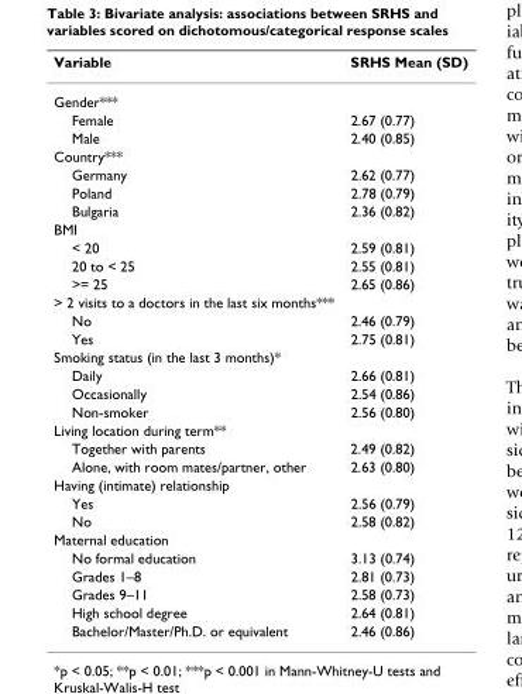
<table><thead><tr><td>Variable</td><td>SRHS Mean (SD)</td></tr></thead><tbody><tr><td colspan="2">Gender***</td></tr><tr><td>Female</td><td>2.67 (0.77)</td></tr><tr><td>Male</td><td>2.40 (0.85)</td></tr><tr><td colspan="2">Country***</td></tr><tr><td>Germany</td><td>2.62 (0.77)</td></tr><tr><td>Poland</td><td>2.78 (0.79)</td></tr><tr><td>Bulgaria</td><td>2.36 (0.82)</td></tr><tr><td colspan="2">BMI</td></tr><tr><td>&lt; 20</td><td>2.59 (0.81)</td></tr><tr><td>20 to &lt; 25</td><td>2.55 (0.81)</td></tr><tr><td>&gt;= 25</td><td>2.65 (0.86)</td></tr><tr><td colspan="2">&gt; 2 visits to a doctors in the last six months***</td></tr><tr><td>No</td><td>2.46 (0.79)</td></tr><tr><td>Yes</td><td>2.75 (0.81)</td></tr><tr><td colspan="2">Smoking status (in the last 3 months)*</td></tr><tr><td>Daily</td><td>2.66 (0.81)</td></tr><tr><td>Occasionally</td><td>2.54 (0.86)</td></tr><tr><td>Non-smoker</td><td>2.56 (0.80)</td></tr><tr><td colspan="2">Living location during term**</td></tr><tr><td>Together with parents</td><td>2.49 (0.82)</td></tr><tr><td>Alone, with room mates/partner, other</td><td>2.63 (0.80)</td></tr><tr><td colspan="2">Having (intimate) relationship</td></tr><tr><td>Yes</td><td>2.56 (0.79)</td></tr><tr><td>No</td><td>2.58 (0.82)</td></tr><tr><td colspan="2">Maternal education</td></tr><tr><td>No formal education</td><td>3.13 (0.74)</td></tr><tr><td>Grades 1–8</td><td>2.81 (0.73)</td></tr><tr><td>Grades 9–11</td><td>2.58 (0.73)</td></tr><tr><td>High school degree</td><td>2.64 (0.81)</td></tr><tr><td>Bachelor/Master/Ph.D. or equivalent</td><td>2.46 (0.86)</td></tr></tbody></table>